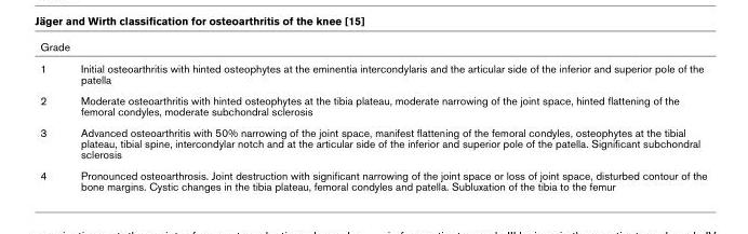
<table><thead><tr><td>Grade</td><td></td></tr></thead><tbody><tr><td>1</td><td>Initial osteoarthritis with hinted osteophytes at the eminentia intercondylaris and the articular side of the inferior and superior pole of the patella</td></tr><tr><td>2</td><td>Moderate osteoarthritis with hinted osteophytes at the tibia plateau, moderate narrowing of the joint space, hinted flattening of the femoral condyles, moderate subchondral sclerosis</td></tr><tr><td>3</td><td>Advanced osteoarthritis with 50% narrowing of the joint space, manifest flattening of the femoral condyles, osteophytes at the tibial plateau, tibial spine, intercondylar notch and at the articular side of the inferior and superior pole of the patella. Significant subchondral sclerosis</td></tr><tr><td>4</td><td>Pronounced osteoarthrosis. Joint destruction with significant narrowing of the joint space or loss of joint space, disturbed contour of the bone margins. Cystic changes in the tibia plateau, femoral condyles and patella. Subluxation of the tibia to the femur</td></tr></tbody></table>